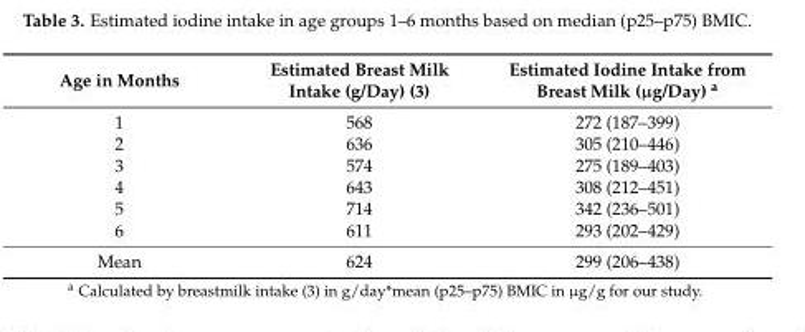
<table><thead><tr><td>Age in Months</td><td>Estimated Breast Milk Intake (g/Day) (3)</td><td>Estimated Iodine Intake from Breast Milk (µg/Day) <sup>a</sup></td></tr></thead><tbody><tr><td>1</td><td>568</td><td>272 (187–399)</td></tr><tr><td>2</td><td>636</td><td>305 (210–446)</td></tr><tr><td>3</td><td>574</td><td>275 (189–403)</td></tr><tr><td>4</td><td>643</td><td>308 (212–451)</td></tr><tr><td>5</td><td>714</td><td>342 (236–501)</td></tr><tr><td>6</td><td>611</td><td>293 (202–429)</td></tr><tr><td>Mean</td><td>624</td><td>299 (206–438)</td></tr></tbody></table>